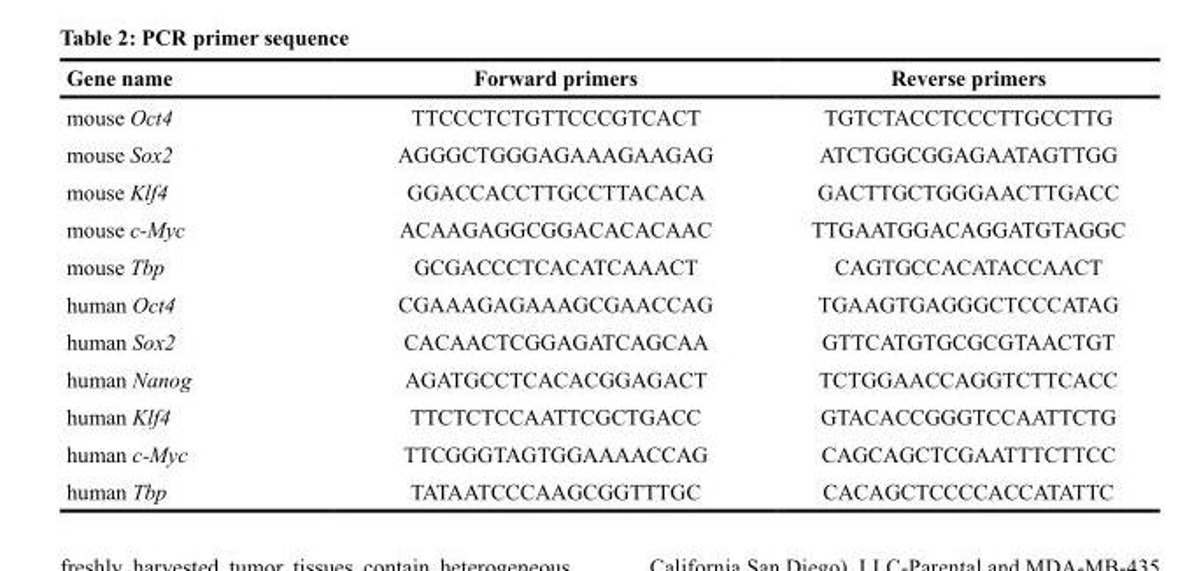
<table><thead><tr><td>Gene name</td><td>Forward primers</td><td>Reverse primers</td></tr></thead><tbody><tr><td>mouse Oct4</td><td>TTCCCTCTGTTCCCGTCACT</td><td>TGTCTACCTCCCTTGCCTTG</td></tr><tr><td>mouse Sox2</td><td>AGGGCTGGGAGAAAGAAGAG</td><td>ATCTGGCGGAGAATAGTTGG</td></tr><tr><td>mouse Klf4</td><td>GGACCACCTTGCCTTACACA</td><td>GACTTGCTGGGAACTTGACC</td></tr><tr><td>mouse c-Myc</td><td>ACAAGAGGCGGACACACAAC</td><td>TTGAATGGACAGGATGTAGGC</td></tr><tr><td>mouse Tbp</td><td>GCGACCCTCACATCAAACT</td><td>CAGTGCCACATACCAACT</td></tr><tr><td>human Oct4</td><td>CGAAAGAGAAAGCGAACCAG</td><td>TGAAGTGAGGGCTCCCATAG</td></tr><tr><td>human Sox2</td><td>CACAACTCGGAGATCAGCAA</td><td>GTTCATGTGCGCGTAACTGT</td></tr><tr><td>human Nanog</td><td>AGATGCCTCACACGGAGACT</td><td>TCTGGAACCAGGTCTTCACC</td></tr><tr><td>human Klf4</td><td>TTCTCTCCAATTCGCTGACC</td><td>GTACACCGGGTCCAATTCTG</td></tr><tr><td>human c-Myc</td><td>TTCGGGTAGTGGAAAACCAG</td><td>CAGCAGCTCGAATTTCTTCC</td></tr><tr><td>human Tbp</td><td>TATAATCCCAAGCGGTTTGC</td><td>CACAGCTCCCCACCATATTC</td></tr></tbody></table>